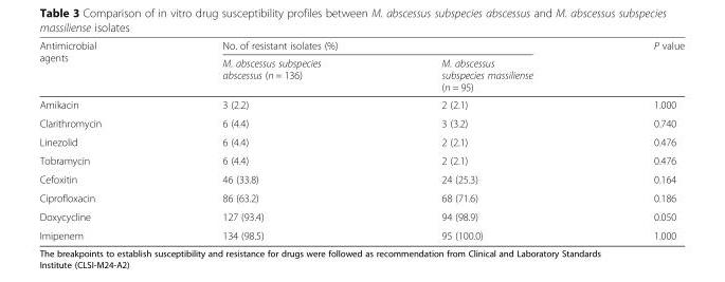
<table><thead><tr><td rowspan="2">Antimicrobial agents</td><td colspan="2">No. of resistant isolates (%)</td><td rowspan="2">P value</td></tr><tr><td>M. abscessus subspecies abscessus (n = 136)</td><td>M. abscessus subspecies massiliense (n = 95)</td></tr></thead><tbody><tr><td>Amikacin</td><td>3 (2.2)</td><td>2 (2.1)</td><td>1.000</td></tr><tr><td>Clarithromycin</td><td>6 (4.4)</td><td>3 (3.2)</td><td>0.740</td></tr><tr><td>Linezolid</td><td>6 (4.4)</td><td>2 (2.1)</td><td>0.476</td></tr><tr><td>Tobramycin</td><td>6 (4.4)</td><td>2 (2.1)</td><td>0.476</td></tr><tr><td>Cefoxitin</td><td>46 (33.8)</td><td>24 (25.3)</td><td>0.164</td></tr><tr><td>Ciprofloxacin</td><td>86 (63.2)</td><td>68 (71.6)</td><td>0.186</td></tr><tr><td>Doxycycline</td><td>127 (93.4)</td><td>94 (98.9)</td><td>0.050</td></tr><tr><td>Imipenem</td><td>134 (98.5)</td><td>95 (100.0)</td><td>1.000</td></tr></tbody></table>